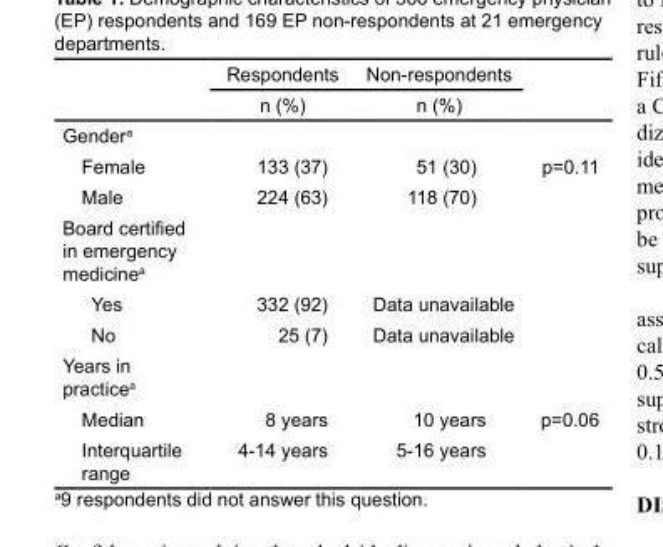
<table><thead><tr><td rowspan="2"></td><td rowspan="2">Respondents n (%)</td><td rowspan="2">Non-respondents n (%)</td><td rowspan="2"></td></tr><tr></tr></thead><tbody><tr><td colspan="4">Gender<sup>a</sup></td></tr><tr><td>Female</td><td>133 (37)</td><td>51 (30)</td><td>p=0.11</td></tr><tr><td>Male</td><td>224 (63)</td><td>118 (70)</td><td></td></tr><tr><td colspan="4">Board certified in emergency medicine<sup>a</sup></td></tr><tr><td>Yes</td><td>332 (92)</td><td>Data unavailable</td><td></td></tr><tr><td>No</td><td>25 (7)</td><td>Data unavailable</td><td></td></tr><tr><td colspan="4">Years in practice<sup>a</sup></td></tr><tr><td>Median</td><td>8 years</td><td>10 years</td><td>p=0.06</td></tr><tr><td>Interquartile range</td><td>4-14 years</td><td>5-16 years</td><td></td></tr></tbody></table>